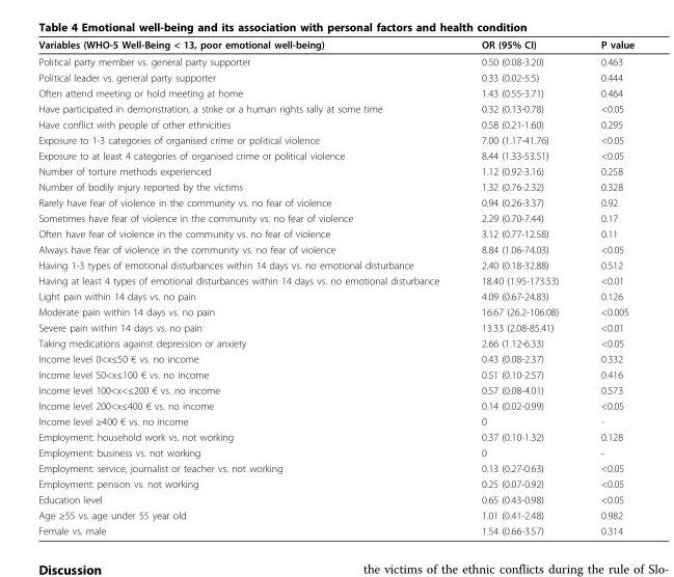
<table><thead><tr><td>Variables (WHO-5 Well-Being &lt; 13, poor emotional well-being)</td><td>OR (95% CI)</td><td>P value</td></tr></thead><tbody><tr><td>Political party member vs. general party supporter</td><td>0.50 (0.08-3.20)</td><td>0.463</td></tr><tr><td>Political leader vs. general party supporter</td><td>0.33 (0.02-5.5)</td><td>0.444</td></tr><tr><td>Often attend meeting or hold meeting at home</td><td>1.43 (0.55-3.71)</td><td>0.464</td></tr><tr><td>Have participated in demonstration, a strike or a human rights rally at some time</td><td>0.32 (0.13-0.78)</td><td>&lt;0.05</td></tr><tr><td>Have conflict with people of other ethnicities</td><td>0.58 (0.21-1.60)</td><td>0.295</td></tr><tr><td>Exposure to 1-3 categories of organised crime or political violence</td><td>7.00 (1.17-41.76)</td><td>&lt;0.05</td></tr><tr><td>Exposure to at least 4 categories of organised crime or political violence</td><td>8.44 (1.33-53.51)</td><td>&lt;0.05</td></tr><tr><td>Number of torture methods experienced</td><td>1.12 (0.92-3.16)</td><td>0.258</td></tr><tr><td>Number of bodily injury reported by the victims</td><td>1.32 (0.76-2.32)</td><td>0.328</td></tr><tr><td>Rarely have fear of violence in the community vs. no fear of violence</td><td>0.94 (0.26-3.37)</td><td>0.92</td></tr><tr><td>Sometimes have fear of violence in the community vs. no fear of violence</td><td>2.29 (0.70-7.44)</td><td>0.17</td></tr><tr><td>Often have fear of violence in the community vs. no fear of violence</td><td>3.12 (0.77-12.58)</td><td>0.11</td></tr><tr><td>Always have fear of violence in the community vs. no fear of violence</td><td>8.84 (1.06-74.03)</td><td>&lt;0.05</td></tr><tr><td>Having 1-3 types of emotional disturbances within 14 days vs. no emotional disturbance</td><td>2.40 (0.18-32.88)</td><td>0.512</td></tr><tr><td>Having at least 4 types of emotional disturbances within 14 days vs. no emotional disturbance</td><td>18.40 (1.95-173.53)</td><td>&lt;0.01</td></tr><tr><td>Light pain within 14 days vs. no pain</td><td>4.09 (0.67-24.83)</td><td>0.126</td></tr><tr><td>Moderate pain within 14 days vs. no pain</td><td>16.67 (26.2-106.08)</td><td>&lt;0.005</td></tr><tr><td>Severe pain within 14 days vs. no pain</td><td>13.33 (2.08-85.41)</td><td>&lt;0.01</td></tr><tr><td>Taking medications against depression or anxiety</td><td>2.66 (1.12-6.33)</td><td>&lt;0.05</td></tr><tr><td>Income level 0&lt;x≤50 € vs. no income</td><td>0.43 (0.08-2.37)</td><td>0.332</td></tr><tr><td>Income level 50&lt;x≤100 € vs. no income</td><td>0.51 (0.10-2.57)</td><td>0.416</td></tr><tr><td>Income level 100&lt;x&lt;≤200 € vs. no income</td><td>0.57 (0.08-4.01)</td><td>0.573</td></tr><tr><td>Income level 200&lt;x≤400 € vs. no income</td><td>0.14 (0.02-0.99)</td><td>&lt;0.05</td></tr><tr><td>Income level ≥400 € vs. no income</td><td>0</td><td>-</td></tr><tr><td>Employment: household work vs. not working</td><td>0.37 (0.10-1.32)</td><td>0.128</td></tr><tr><td>Employment: business vs. not working</td><td>0</td><td>-</td></tr><tr><td>Employment: service, journalist or teacher vs. not working</td><td>0.13 (0.27-0.63)</td><td>&lt;0.05</td></tr><tr><td>Employment: pension vs. not working</td><td>0.25 (0.07-0.92)</td><td>&lt;0.05</td></tr><tr><td>Education level</td><td>0.65 (0.43-0.98)</td><td>&lt;0.05</td></tr><tr><td>Age ≥55 vs. age under 55 year old</td><td>1.01 (0.41-2.48)</td><td>0.982</td></tr><tr><td>Female vs. male</td><td>1.54 (0.66-3.57)</td><td>0.314</td></tr></tbody></table>